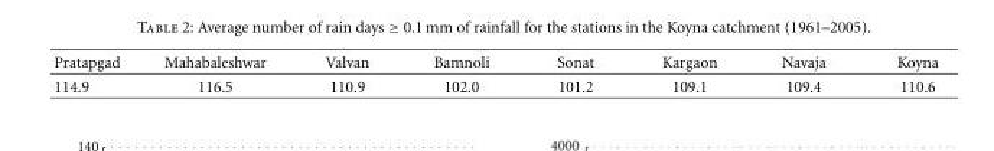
<table><thead><tr><td>Pratapgad</td><td>Mahabaleshwar</td><td>Valvan</td><td>Bamnoli</td><td>Sonat</td><td>Kargaon</td><td>Navaja</td><td>Koyna</td></tr></thead><tbody><tr><td>114.9</td><td>116.5</td><td>110.9</td><td>102.0</td><td>101.2</td><td>109.1</td><td>109.4</td><td>110.6</td></tr></tbody></table>